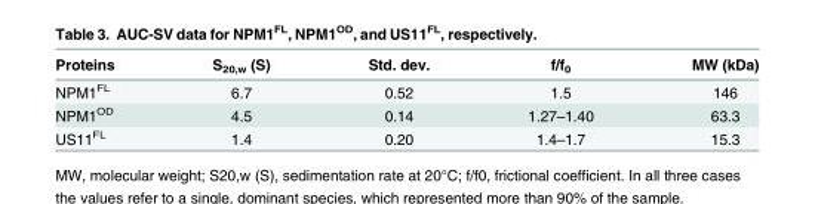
<table><thead><tr><td>Proteins</td><td>S<sub>20,w</sub> (S)</td><td>Std. dev.</td><td>f/f<sub>0</sub></td><td>MW (kDa)</td></tr></thead><tbody><tr><td>NPM1<sup>FL</sup></td><td>6.7</td><td>0.52</td><td>1.5</td><td>146</td></tr><tr><td>NPM1<sup>OD</sup></td><td>4.5</td><td>0.14</td><td>1.27–1.40</td><td>63.3</td></tr><tr><td>US11<sup>FL</sup></td><td>1.4</td><td>0.20</td><td>1.4–1.7</td><td>15.3</td></tr></tbody></table>